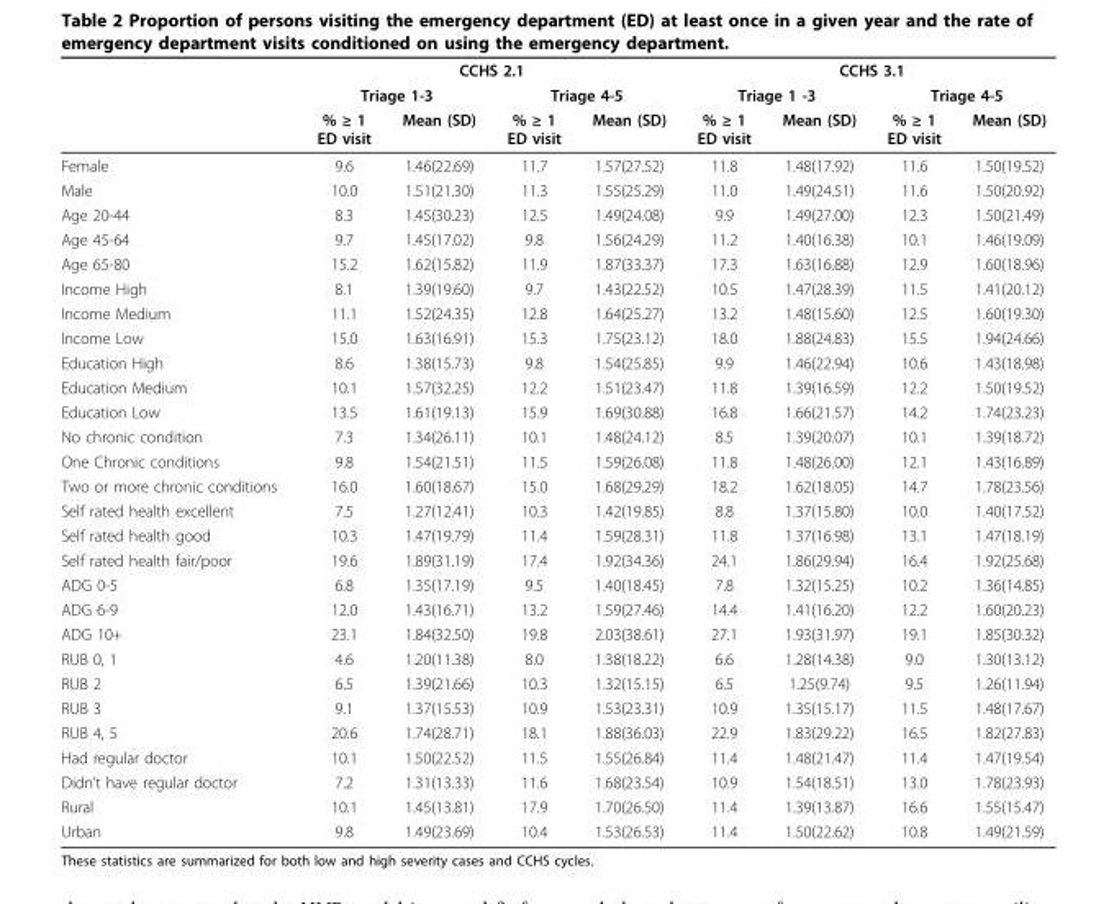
<table><thead><tr><td rowspan="3"></td><td colspan="4">CCHS 2.1</td><td colspan="4">CCHS 3.1</td></tr><tr><td colspan="2">Triage 1-3</td><td colspan="2">Triage 4-5</td><td colspan="2">Triage 1 -3</td><td colspan="2">Triage 4-5</td></tr><tr><td>% ≥ 1 ED visit</td><td>Mean (SD)</td><td>% ≥ 1 ED visit</td><td>Mean (SD)</td><td>% ≥ 1 ED visit</td><td>Mean (SD)</td><td>% ≥ 1 ED visit</td><td>Mean (SD)</td></tr></thead><tbody><tr><td>Female</td><td>9.6</td><td>1.46(22.69)</td><td>11.7</td><td>1.57(27.52)</td><td>11.8</td><td>1.48(17.92)</td><td>11.6</td><td>1.50(19.52)</td></tr><tr><td>Male</td><td>10.0</td><td>1.51(21.30)</td><td>11.3</td><td>1.55(25.29)</td><td>11.0</td><td>1.49(24.51)</td><td>11.6</td><td>1.50(20.92)</td></tr><tr><td>Age 20-44</td><td>8.3</td><td>1.45(30.23)</td><td>12.5</td><td>1.49(24.08)</td><td>9.9</td><td>1.49(27.00)</td><td>12.3</td><td>1.50(21.49)</td></tr><tr><td>Age 45-64</td><td>9.7</td><td>1.45(17.02)</td><td>9.8</td><td>1.56(24.29)</td><td>11.2</td><td>1.40(16.38)</td><td>10.1</td><td>1.46(19.09)</td></tr><tr><td>Age 65-80</td><td>15.2</td><td>1.62(15.82)</td><td>11.9</td><td>1.87(33.37)</td><td>17.3</td><td>1.63(16.88)</td><td>12.9</td><td>1.60(18.96)</td></tr><tr><td>Income High</td><td>8.1</td><td>1.39(19.60)</td><td>9.7</td><td>1.43(22.52)</td><td>10.5</td><td>1.47(28.39)</td><td>11.5</td><td>1.41(20.12)</td></tr><tr><td>Income Medium</td><td>11.1</td><td>1.52(24.35)</td><td>12.8</td><td>1.64(25.27)</td><td>13.2</td><td>1.48(15.60)</td><td>12.5</td><td>1.60(19.30)</td></tr><tr><td>Income Low</td><td>15.0</td><td>1.63(16.91)</td><td>15.3</td><td>1.75(23.12)</td><td>18.0</td><td>1.88(24.83)</td><td>15.5</td><td>1.94(24.66)</td></tr><tr><td>Education High</td><td>8.6</td><td>1.38(15.73)</td><td>9.8</td><td>1.54(25.85)</td><td>9.9</td><td>1.46(22.94)</td><td>10.6</td><td>1.43(18.98)</td></tr><tr><td>Education Medium</td><td>10.1</td><td>1.57(32.25)</td><td>12.2</td><td>1.51(23.47)</td><td>11.8</td><td>1.39(16.59)</td><td>12.2</td><td>1.50(19.52)</td></tr><tr><td>Education Low</td><td>13.5</td><td>1.61(19.13)</td><td>15.9</td><td>1.69(30.88)</td><td>16.8</td><td>1.66(21.57)</td><td>14.2</td><td>1.74(23.23)</td></tr><tr><td>No chronic condition</td><td>7.3</td><td>1.34(26.11)</td><td>10.1</td><td>1.48(24.12)</td><td>8.5</td><td>1.39(20.07)</td><td>10.1</td><td>1.39(18.72)</td></tr><tr><td>One Chronic conditions</td><td>9.8</td><td>1.54(21.51)</td><td>11.5</td><td>1.59(26.08)</td><td>11.8</td><td>1.48(26.00)</td><td>12.1</td><td>1.43(16.89)</td></tr><tr><td>Two or more chronic conditions</td><td>16.0</td><td>1.60(18.67)</td><td>15.0</td><td>1.68(29.29)</td><td>18.2</td><td>1.62(18.05)</td><td>14.7</td><td>1.78(23.56)</td></tr><tr><td>Self rated health excellent</td><td>7.5</td><td>1.27(12.41)</td><td>10.3</td><td>1.42(19.85)</td><td>8.8</td><td>1.37(15.80)</td><td>10.0</td><td>1.40(17.52)</td></tr><tr><td>Self rated health good</td><td>10.3</td><td>1.47(19.79)</td><td>11.4</td><td>1.59(28.31)</td><td>11.8</td><td>1.37(16.98)</td><td>13.1</td><td>1.47(18.19)</td></tr><tr><td>Self rated health fair/poor</td><td>19.6</td><td>1.89(31.19)</td><td>17.4</td><td>1.92(34.36)</td><td>24.1</td><td>1.86(29.94)</td><td>16.4</td><td>1.92(25.68)</td></tr><tr><td>ADG 0-5</td><td>6.8</td><td>1.35(17.19)</td><td>9.5</td><td>1.40(18.45)</td><td>7.8</td><td>1.32(15.25)</td><td>10.2</td><td>1.36(14.85)</td></tr><tr><td>ADG 6-9</td><td>12.0</td><td>1.43(16.71)</td><td>13.2</td><td>1.59(27.46)</td><td>14.4</td><td>1.41(16.20)</td><td>12.2</td><td>1.60(20.23)</td></tr><tr><td>ADG 10+</td><td>23.1</td><td>1.84(32.50)</td><td>19.8</td><td>2.03(38.61)</td><td>27.1</td><td>1.93(31.97)</td><td>19.1</td><td>1.85(30.32)</td></tr><tr><td>RUB 0, 1</td><td>4.6</td><td>1.20(11.38)</td><td>8.0</td><td>1.38(18.22)</td><td>6.6</td><td>1.28(14.38)</td><td>9.0</td><td>1.30(13.12)</td></tr><tr><td>RUB 2</td><td>6.5</td><td>1.39(21.66)</td><td>10.3</td><td>1.32(15.15)</td><td>6.5</td><td>1.25(9.74)</td><td>9.5</td><td>1.26(11.94)</td></tr><tr><td>RUB 3</td><td>9.1</td><td>1.37(15.53)</td><td>10.9</td><td>1.53(23.31)</td><td>10.9</td><td>1.35(15.17)</td><td>11.5</td><td>1.48(17.67)</td></tr><tr><td>RUB 4, 5</td><td>20.6</td><td>1.74(28.71)</td><td>18.1</td><td>1.88(36.03)</td><td>22.9</td><td>1.83(29.22)</td><td>16.5</td><td>1.82(27.83)</td></tr><tr><td>Had regular doctor</td><td>10.1</td><td>1.50(22.52)</td><td>11.5</td><td>1.55(26.84)</td><td>11.4</td><td>1.48(21.47)</td><td>11.4</td><td>1.47(19.54)</td></tr><tr><td>Didn’t have regular doctor</td><td>7.2</td><td>1.31(13.33)</td><td>11.6</td><td>1.68(23.54)</td><td>10.9</td><td>1.54(18.51)</td><td>13.0</td><td>1.78(23.93)</td></tr><tr><td>Rural</td><td>10.1</td><td>1.45(13.81)</td><td>17.9</td><td>1.70(26.50)</td><td>11.4</td><td>1.39(13.87)</td><td>16.6</td><td>1.55(15.47)</td></tr><tr><td>Urban</td><td>9.8</td><td>1.49(23.69)</td><td>10.4</td><td>1.53(26.53)</td><td>11.4</td><td>1.50(22.62)</td><td>10.8</td><td>1.49(21.59)</td></tr></tbody></table>